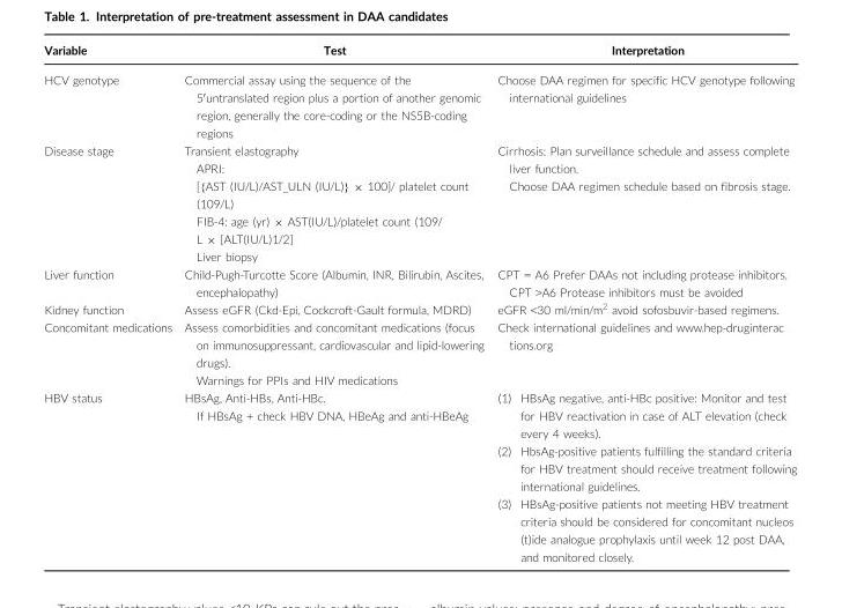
<table><thead><tr><td>Variable</td><td>Test</td><td>Interpretation</td></tr></thead><tbody><tr><td>HCV genotype</td><td>Commercial assay using the sequence of the 5′untranslated region plus a portion of another genomic region, generally the core-coding or the NS5B-coding regions</td><td>Choose DAA regimen for specific HCV genotype following international guidelines</td></tr><tr><td>Disease stage</td><td>Transient elastography APRI: [{AST (IU/L)/AST_ULN (IU/L)} × 100]/ platelet count (109/L) FIB-4: age (yr) × AST(IU/L)/platelet count (109/ L × [ALT(IU/L)1/2] Liver biopsy</td><td>Cirrhosis: Plan surveillance schedule and assess complete liver function. Choose DAA regimen schedule based on fibrosis stage.</td></tr><tr><td>Liver function</td><td>Child-Pugh-Turcotte Score (Albumin, INR, Bilirubin, Ascites, encephalopathy)</td><td>CPT = A6 Prefer DAAs not including protease inhibitors. CPT &gt;A6 Protease inhibitors must be avoided</td></tr><tr><td>Kidney function</td><td>Assess eGFR (Ckd-Epi, Cockcroft-Gault formula, MDRD)</td><td>eGFR &lt;30 ml/min/m<sup>2</sup> avoid sofosbuvir-based regimens.</td></tr><tr><td>Concomitant medications</td><td>Assess comorbidities and concomitant medications (focus on immunosuppressant, cardiovascular and lipid-lowering drugs). Warnings for PPIs and HIV medications</td><td>Check international guidelines and www.hep-druginterac tions.org</td></tr><tr><td>HBV status</td><td>HBsAg, Anti-HBs, Anti-HBc. If HBsAg + check HBV DNA, HBeAg and anti-HBeAg</td><td>(1) HBsAg negative, anti-HBc positive: Monitor and test for HBV reactivation in case of ALT elevation (check every 4 weeks). (2) HbsAg-positive patients fulfilling the standard criteria for HBV treatment should receive treatment following international guidelines. (3) HBsAg-positive patients not meeting HBV treatment criteria should be considered for concomitant nucleos (t)ide analogue prophylaxis until week 12 post DAA, and monitored closely.</td></tr></tbody></table>